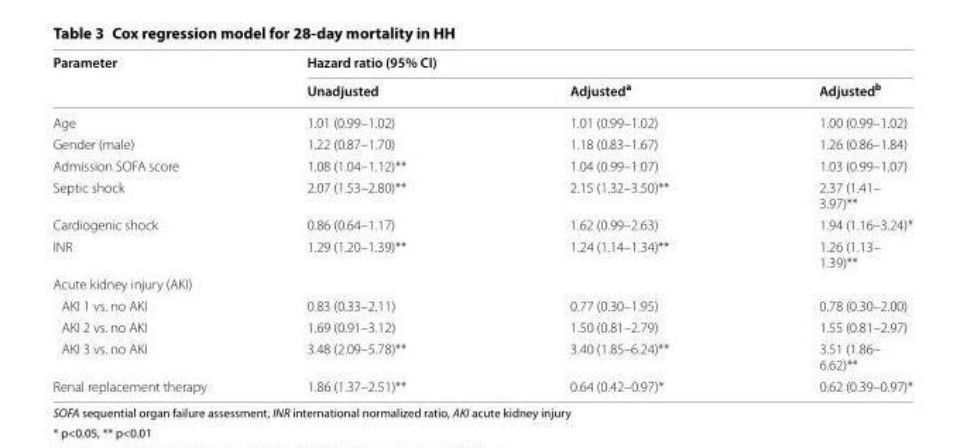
<table><thead><tr><td rowspan="2">Parameter</td><td colspan="3">Hazard ratio (95% CI)</td></tr><tr><td>Unadjusted</td><td>Adjusted<sup>a</sup></td><td>Adjusted<sup>b</sup></td></tr></thead><tbody><tr><td>Age</td><td>1.01 (0.99–1.02)</td><td>1.01 (0.99–1.02)</td><td>1.00 (0.99–1.02)</td></tr><tr><td>Gender (male)</td><td>1.22 (0.87–1.70)</td><td>1.18 (0.83–1.67)</td><td>1.26 (0.86–1.84)</td></tr><tr><td>Admission SOFA score</td><td>1.08 (1.04–1.12)**</td><td>1.04 (0.99–1.07)</td><td>1.03 (0.99–1.07)</td></tr><tr><td>Septic shock</td><td>2.07 (1.53–2.80)**</td><td>2.15 (1.32–3.50)**</td><td>2.37 (1.41– 3.97)**</td></tr><tr><td>Cardiogenic shock</td><td>0.86 (0.64–1.17)</td><td>1.62 (0.99–2.63)</td><td>1.94 (1.16–3.24)*</td></tr><tr><td>INR</td><td>1.29 (1.20–1.39)**</td><td>1.24 (1.14–1.34)**</td><td>1.26 (1.13– 1.39)**</td></tr><tr><td colspan="4">Acute kidney injury (AKI)</td></tr><tr><td>AKI 1 vs. no AKI</td><td>0.83 (0.33–2.11)</td><td>0.77 (0.30–1.95)</td><td>0.78 (0.30–2.00)</td></tr><tr><td>AKI 2 vs. no AKI</td><td>1.69 (0.91–3.12)</td><td>1.50 (0.81–2.79)</td><td>1.55 (0.81–2.97)</td></tr><tr><td>AKI 3 vs. no AKI</td><td>3.48 (2.09–5.78)**</td><td>3.40 (1.85–6.24)**</td><td>3.51 (1.86– 6.62)**</td></tr><tr><td>Renal replacement therapy</td><td>1.86 (1.37–2.51)**</td><td>0.64 (0.42–0.97)*</td><td>0.62 (0.39–0.97)*</td></tr></tbody></table>